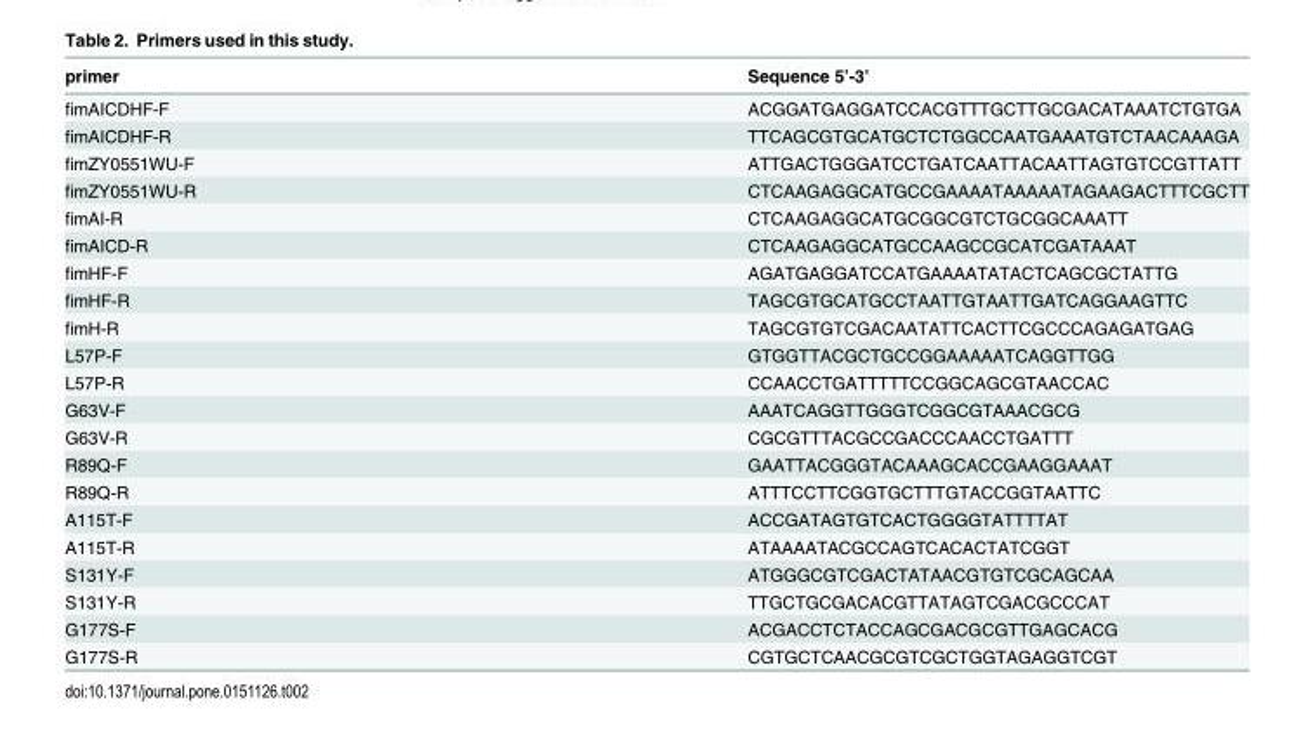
<table><thead><tr><td>primer</td><td>Sequence 5’-3’</td></tr></thead><tbody><tr><td>fimAICDHF-F</td><td>ACGGATGAGGATCCACGTTTGCTTGCGACATAAATCTGTGA</td></tr><tr><td>fimAICDHF-R</td><td>TTCAGCGTGCATGCTCTGGCCAATGAAATGTCTAACAAAGA</td></tr><tr><td>fimZY0551WU-F</td><td>ATTGACTGGGATCCTGATCAATTACAATTAGTGTCCGTTATT</td></tr><tr><td>fimZY0551WU-R</td><td>CTCAAGAGGCATGCCGAAAATAAAAATAGAAGACTTTCGCTT</td></tr><tr><td>fimAI-R</td><td>CTCAAGAGGCATGCGGCGTCTGCGGCAAATT</td></tr><tr><td>fimAICD-R</td><td>CTCAAGAGGCATGCCAAGCCGCATCGATAAAT</td></tr><tr><td>fimHF-F</td><td>AGATGAGGATCCATGAAAATATACTCAGCGCTATTG</td></tr><tr><td>fimHF-R</td><td>TAGCGTGCATGCCTAATTGTAATTGATCAGGAAGTTC</td></tr><tr><td>fimH-R</td><td>TAGCGTGTCGACAATATTCACTTCGCCCAGAGATGAG</td></tr><tr><td>L57P-F</td><td>GTGGTTACGCTGCCGGAAAAATCAGGTTGG</td></tr><tr><td>L57P-R</td><td>CCAACCTGATTTTTCCGGCAGCGTAACCAC</td></tr><tr><td>G63V-F</td><td>AAATCAGGTTGGGTCGGCGTAAACGCG</td></tr><tr><td>G63V-R</td><td>CGCGTTTACGCCGACCCAACCTGATTT</td></tr><tr><td>R89Q-F</td><td>GAATTACGGGTACAAAGCACCGAAGGAAAT</td></tr><tr><td>R89Q-R</td><td>ATTTCCTTCGGTGCTTTGTACCGGTAATTC</td></tr><tr><td>A115T-F</td><td>ACCGATAGTGTCACTGGGGTATTTTAT</td></tr><tr><td>A115T-R</td><td>ATAAAATACGCCAGTCACACTATCGGT</td></tr><tr><td>S131Y-F</td><td>ATGGGCGTCGACTATAACGTGTCGCAGCAA</td></tr><tr><td>S131Y-R</td><td>TTGCTGCGACACGTTATAGTCGACGCCCAT</td></tr><tr><td>G177S-F</td><td>ACGACCTCTACCAGCGACGCGTTGAGCACG</td></tr><tr><td>G177S-R</td><td>CGTGCTCAACGCGTCGCTGGTAGAGGTCGT</td></tr></tbody></table>